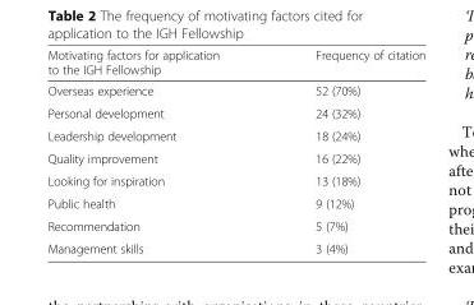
<table><thead><tr><td>Motivating factors for application to the IGH Fellowship</td><td>Frequency of citation</td></tr></thead><tbody><tr><td>Overseas experience</td><td>52 (70%)</td></tr><tr><td>Personal development</td><td>24 (32%)</td></tr><tr><td>Leadership development</td><td>18 (24%)</td></tr><tr><td>Quality improvement</td><td>16 (22%)</td></tr><tr><td>Looking for inspiration</td><td>13 (18%)</td></tr><tr><td>Public health</td><td>9 (12%)</td></tr><tr><td>Recommendation</td><td>5 (7%)</td></tr><tr><td>Management skills</td><td>3 (4%)</td></tr></tbody></table>